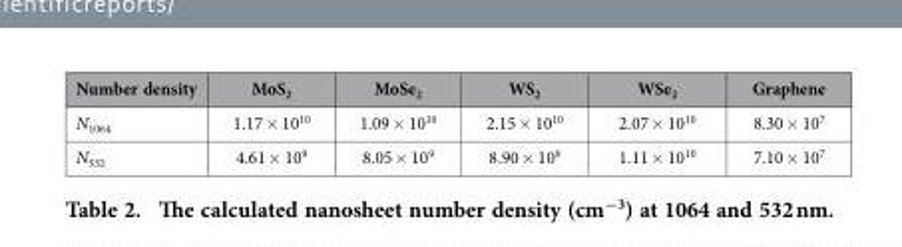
<table><thead><tr><td>Number density</td><td>MoS<sub>2</sub></td><td>MoSe<sub>2</sub></td><td>WS<sub>2</sub></td><td>WSe<sub>2</sub></td><td>Graphene</td></tr></thead><tbody><tr><td>N<sub>1064</sub></td><td>1.17 × 10<sup>10</sup></td><td>1.09 × 10<sup>10</sup></td><td>2.15 × 10<sup>10</sup></td><td>2.07 × 10<sup>10</sup></td><td>8.30 × 10<sup>7</sup></td></tr><tr><td>N<sub>532</sub></td><td>4.61 × 10<sup>9</sup></td><td>8.05 × 10<sup>9</sup></td><td>8.90 × 10<sup>9</sup></td><td>1.11 × 10<sup>10</sup></td><td>7.10 × 10<sup>7</sup></td></tr></tbody></table>